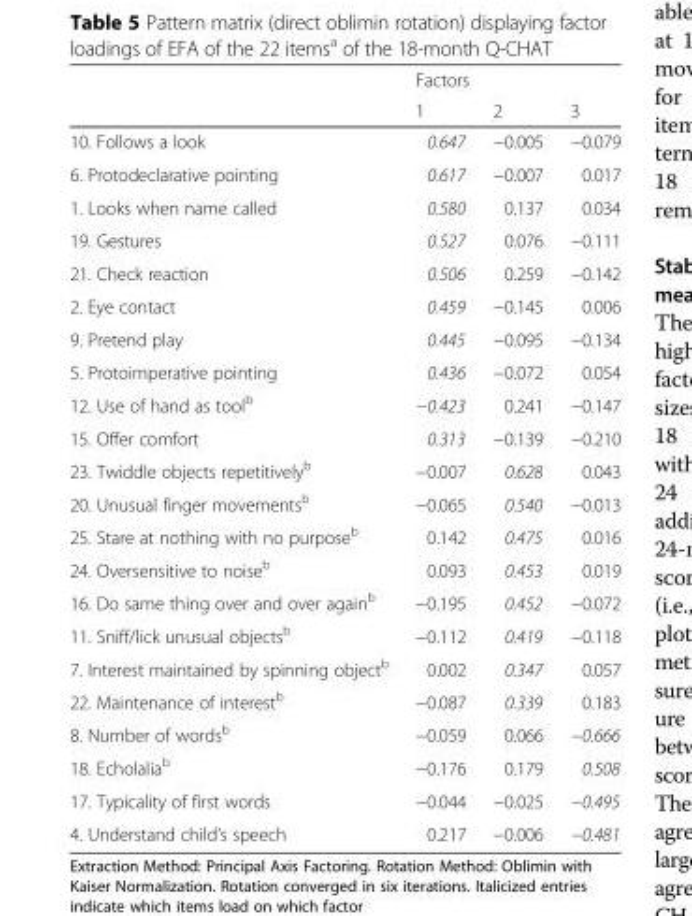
<table><thead><tr><td rowspan="2"></td><td colspan="3">Factors</td></tr><tr><td>1</td><td>2</td><td>3</td></tr></thead><tbody><tr><td>10. Follows a look</td><td>0.647</td><td>−0.005</td><td>−0.079</td></tr><tr><td>6. Protodeclarative pointing</td><td>0.617</td><td>−0.007</td><td>0.017</td></tr><tr><td>1. Looks when name called</td><td>0.580</td><td>0.137</td><td>0.034</td></tr><tr><td>19. Gestures</td><td>0.527</td><td>0.076</td><td>−0.111</td></tr><tr><td>21. Check reaction</td><td>0.506</td><td>0.259</td><td>−0.142</td></tr><tr><td>2. Eye contact</td><td>0.459</td><td>−0.145</td><td>0.006</td></tr><tr><td>9. Pretend play</td><td>0.445</td><td>−0.095</td><td>−0.134</td></tr><tr><td>5. Protoimperative pointing</td><td>0.436</td><td>−0.072</td><td>0.054</td></tr><tr><td>12. Use of hand as tool<sup>b</sup></td><td>−0.423</td><td>0.241</td><td>−0.147</td></tr><tr><td>15. Offer comfort</td><td>0.313</td><td>−0.139</td><td>−0.210</td></tr><tr><td>23. Twiddle objects repetitively<sup>b</sup></td><td>−0.007</td><td>0.628</td><td>0.043</td></tr><tr><td>20. Unusual finger movements<sup>b</sup></td><td>−0.065</td><td>0.540</td><td>−0.013</td></tr><tr><td>25. Stare at nothing with no purpose<sup>b</sup></td><td>0.142</td><td>0.475</td><td>0.016</td></tr><tr><td>24. Oversensitive to noise<sup>b</sup></td><td>0.093</td><td>0.453</td><td>0.019</td></tr><tr><td>16. Do same thing over and over again<sup>b</sup></td><td>−0.195</td><td>0.452</td><td>−0.072</td></tr><tr><td>11. Sniff/lick unusual objects<sup>b</sup></td><td>−0.112</td><td>0.419</td><td>−0.118</td></tr><tr><td>7. Interest maintained by spinning object<sup>b</sup></td><td>0.002</td><td>0.347</td><td>0.057</td></tr><tr><td>22. Maintenance of interest<sup>b</sup></td><td>−0.087</td><td>0.339</td><td>0.183</td></tr><tr><td>8. Number of words<sup>b</sup></td><td>−0.059</td><td>0.066</td><td>−0.666</td></tr><tr><td>18. Echolalia<sup>b</sup></td><td>−0.176</td><td>0.179</td><td>0.508</td></tr><tr><td>17. Typicality of first words</td><td>−0.044</td><td>−0.025</td><td>−0.495</td></tr><tr><td>4. Understand child’s speech</td><td>0.217</td><td>−0.006</td><td>−0.481</td></tr></tbody></table>